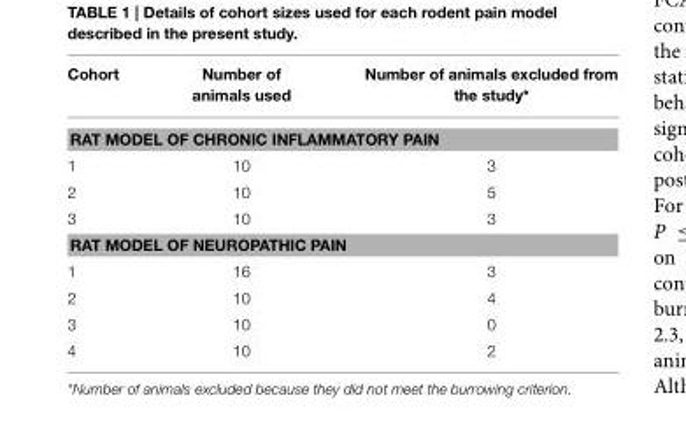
<table><thead><tr><td>Cohort</td><td>Number of animals used</td><td>Number of animals excluded from the study*</td></tr></thead><tbody><tr><td colspan="3">RAT MODEL OF CHRONIC INFLAMMATORY PAIN</td></tr><tr><td>1</td><td>10</td><td>3</td></tr><tr><td>2</td><td>10</td><td>5</td></tr><tr><td>3</td><td>10</td><td>3</td></tr><tr><td colspan="3">RAT MODEL OF NEUROPATHIC PAIN</td></tr><tr><td>1</td><td>16</td><td>3</td></tr><tr><td>2</td><td>10</td><td>4</td></tr><tr><td>3</td><td>10</td><td>0</td></tr><tr><td>4</td><td>10</td><td>2</td></tr></tbody></table>